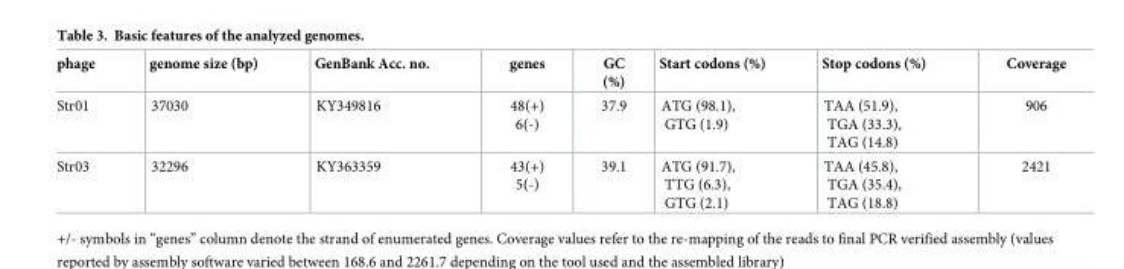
<table><thead><tr><td>phage</td><td>genome size (bp)</td><td>GenBank Acc. no.</td><td>genes</td><td>GC (%)</td><td>Start codons (%)</td><td>Stop codons (%)</td><td>Coverage</td></tr></thead><tbody><tr><td>Str01</td><td>37030</td><td>KY349816</td><td>48(+) 6(-)</td><td>37.9</td><td>ATG (98.1), GTG (1.9)</td><td>TAA (51.9), TGA (33.3), TAG (14.8)</td><td>906</td></tr><tr><td>Str03</td><td>32296</td><td>KY363359</td><td>43(+) 5(-)</td><td>39.1</td><td>ATG (91.7), TTG (6.3), GTG (2.1)</td><td>TAA (45.8), TGA (35.4), TAG (18.8)</td><td>2421</td></tr></tbody></table>